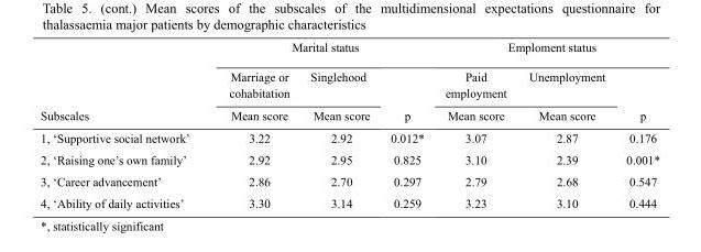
<table><thead><tr><td rowspan="3">Subscales</td><td colspan="3">Marital status</td><td colspan="3">Emploment status</td></tr><tr><td rowspan="2">Marriage or cohabitation Mean score</td><td rowspan="2">Singlehood Mean score</td><td rowspan="2">p</td><td rowspan="2">Paid employment Mean score</td><td rowspan="2">Unemployment Mean score</td><td rowspan="2">p</td></tr><tr></tr></thead><tbody><tr><td>1, ‘Supportive social network’</td><td>3.22</td><td>2.92</td><td>0.012*</td><td>3.07</td><td>2.87</td><td>0.176</td></tr><tr><td>2, ‘Raising one’s own family’</td><td>2.92</td><td>2.95</td><td>0.825</td><td>3.10</td><td>2.39</td><td>0.001*</td></tr><tr><td>3, ‘Career advancement’</td><td>2.86</td><td>2.70</td><td>0.297</td><td>2.79</td><td>2.68</td><td>0.547</td></tr><tr><td>4, ‘Ability of daily activities’</td><td>3.30</td><td>3.14</td><td>0.259</td><td>3.23</td><td>3.10</td><td>0.444</td></tr></tbody></table>